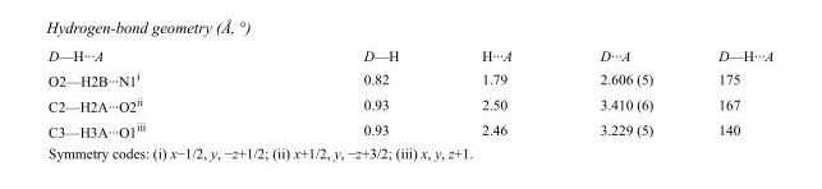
<table><tbody><tr><td>D—H···A</td><td>D—H</td><td>H···A</td><td>D···A</td><td>D—H···A</td></tr><tr><td>O2—H2B···N1<sup>i</sup></td><td>0.82</td><td>1.79</td><td>2.606 (5)</td><td>175</td></tr><tr><td>C2—H2A···O2<sup>ii</sup></td><td>0.93</td><td>2.50</td><td>3.410 (6)</td><td>167</td></tr><tr><td>C3—H3A···O1<sup>iii</sup></td><td>0.93</td><td>2.46</td><td>3.229 (5)</td><td>140</td></tr></tbody></table>